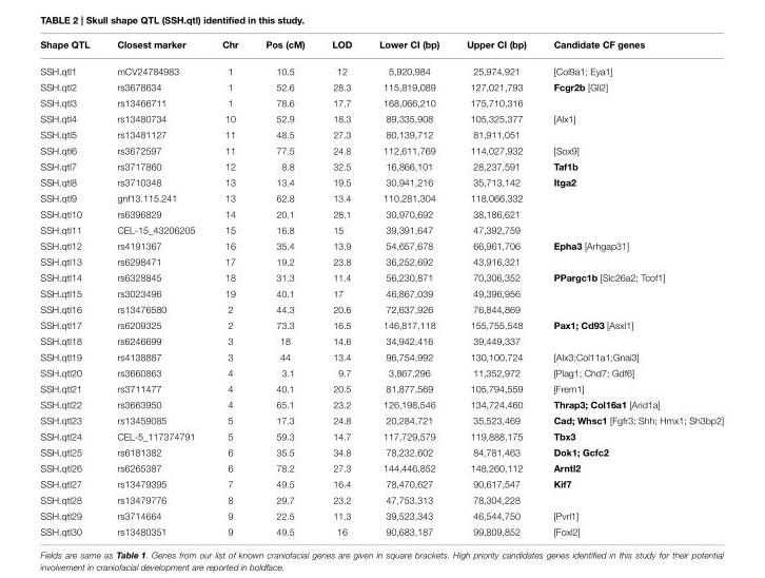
<table><thead><tr><td>Shape QTL</td><td>Closest marker</td><td>Chr</td><td>Pos (cM)</td><td>LOD</td><td>Lower CI (bp)</td><td>Upper CI (bp)</td><td>Candidate CF genes</td></tr></thead><tbody><tr><td>SSH.qtl1</td><td>mCV24784983</td><td>1</td><td>10.5</td><td>12</td><td>5,920,984</td><td>25,974,921</td><td>[Col9a1; Eya1]</td></tr><tr><td>SSH.qtl2</td><td>rs3678634</td><td>1</td><td>52.6</td><td>28.3</td><td>115,819,089</td><td>127,021,793</td><td>Fcgr2b [Gli2]</td></tr><tr><td>SSH.qtl3</td><td>rs13466711</td><td>1</td><td>78.6</td><td>17.7</td><td>168,066,210</td><td>175,710,316</td><td></td></tr><tr><td>SSH.qtl4</td><td>rs13480734</td><td>10</td><td>52.9</td><td>18.3</td><td>89,335,908</td><td>105,325,377</td><td>[Alx1]</td></tr><tr><td>SSH.qtl5</td><td>rs13481127</td><td>11</td><td>48.5</td><td>27.3</td><td>80,139,712</td><td>81,911,051</td><td></td></tr><tr><td>SSH.qtl6</td><td>rs3672597</td><td>11</td><td>77.5</td><td>24.8</td><td>112,611,769</td><td>114,027,932</td><td>[Sox9]</td></tr><tr><td>SSH.qtl7</td><td>rs3717860</td><td>12</td><td>8.8</td><td>32.5</td><td>16,866,101</td><td>28,237,591</td><td>Taf1b</td></tr><tr><td>SSH.qtl8</td><td>rs3710348</td><td>13</td><td>13.4</td><td>19.5</td><td>30,941,216</td><td>35,713,142</td><td>Itga2</td></tr><tr><td>SSH.qtl9</td><td>gnf13.115.241</td><td>13</td><td>62.8</td><td>13.4</td><td>110,281,304</td><td>118,066,332</td><td></td></tr><tr><td>SSH.qtl10</td><td>rs6396829</td><td>14</td><td>20.1</td><td>28.1</td><td>30,970,692</td><td>38,186,621</td><td></td></tr><tr><td>SSH.qtl11</td><td>CEL-15_43206205</td><td>15</td><td>16.8</td><td>15</td><td>39,391,647</td><td>47,392,759</td><td></td></tr><tr><td>SSH.qtl12</td><td>rs4191367</td><td>16</td><td>35.4</td><td>13.9</td><td>54,657,678</td><td>66,961,706</td><td>Epha3 [Arhgap31]</td></tr><tr><td>SSH.qtl13</td><td>rs6298471</td><td>17</td><td>19.2</td><td>23.8</td><td>36,252,692</td><td>43,916,321</td><td></td></tr><tr><td>SSH.qtl14</td><td>rs6328845</td><td>18</td><td>31.3</td><td>11.4</td><td>56,230,871</td><td>70,306,352</td><td>PPargc1b [Slc26a2; Tcof1]</td></tr><tr><td>SSH.qtl15</td><td>rs3023496</td><td>19</td><td>40.1</td><td>17</td><td>46,867,039</td><td>49,396,956</td><td></td></tr><tr><td>SSH.qtl16</td><td>rs13476580</td><td>2</td><td>44.3</td><td>20.6</td><td>72,637,926</td><td>76,844,869</td><td></td></tr><tr><td>SSH.qtl17</td><td>rs6209325</td><td>2</td><td>73.3</td><td>16.5</td><td>146,817,118</td><td>155,755,548</td><td>Pax1; Cd93 [Asxl1]</td></tr><tr><td>SSH.qtl18</td><td>rs6246699</td><td>3</td><td>18</td><td>14.6</td><td>34,942,416</td><td>39,449,337</td><td></td></tr><tr><td>SSH.qtl19</td><td>rs4138887</td><td>3</td><td>44</td><td>13.4</td><td>96,754,992</td><td>130,100,724</td><td>[Alx3;Col11a1;Gnai3]</td></tr><tr><td>SSH.qtl20</td><td>rs3660863</td><td>4</td><td>3.1</td><td>9.7</td><td>3,867,296</td><td>11,352,972</td><td>[Plag1; Chd7; Gdf6]</td></tr><tr><td>SSH.qtl21</td><td>rs3711477</td><td>4</td><td>40.1</td><td>20.5</td><td>81,877,569</td><td>105,794,559</td><td>[Frem1]</td></tr><tr><td>SSH.qtl22</td><td>rs3663950</td><td>4</td><td>65.1</td><td>23.2</td><td>126,198,546</td><td>134,724,460</td><td>Thrap3; Col16a1 [Arid1a]</td></tr><tr><td>SSH.qtl23</td><td>rs13459085</td><td>5</td><td>17.3</td><td>24.8</td><td>20,284,721</td><td>35,523,469</td><td>Cad; Whsc1 [Fgfr3; Shh; Hmx1; Sh3bp2]</td></tr><tr><td>SSH.qtl24</td><td>CEL-5_117374791</td><td>5</td><td>59.3</td><td>14.7</td><td>117,729,579</td><td>119,888,175</td><td>Tbx3</td></tr><tr><td>SSH.qtl25</td><td>rs6181382</td><td>6</td><td>35.5</td><td>34.8</td><td>78,232,602</td><td>84,781,463</td><td>Dok1; Gcfc2</td></tr><tr><td>SSH.qtl26</td><td>rs6265387</td><td>6</td><td>78.2</td><td>27.3</td><td>144,446,852</td><td>148,260,112</td><td>Arntl2</td></tr><tr><td>SSH.qtl27</td><td>rs13479395</td><td>7</td><td>49.5</td><td>16.4</td><td>78,470,627</td><td>90,617,547</td><td>Kif7</td></tr><tr><td>SSH.qtl28</td><td>rs13479776</td><td>8</td><td>29.7</td><td>23.2</td><td>47,753,313</td><td>78,304,228</td><td></td></tr><tr><td>SSH.qtl29</td><td>rs3714664</td><td>9</td><td>22.5</td><td>11.3</td><td>39,523,343</td><td>46,544,750</td><td>[Pvrl1]</td></tr><tr><td>SSH.qtl30</td><td>rs13480351</td><td>9</td><td>49.5</td><td>16</td><td>90,683,187</td><td>99,809,852</td><td>[Foxl2]</td></tr></tbody></table>